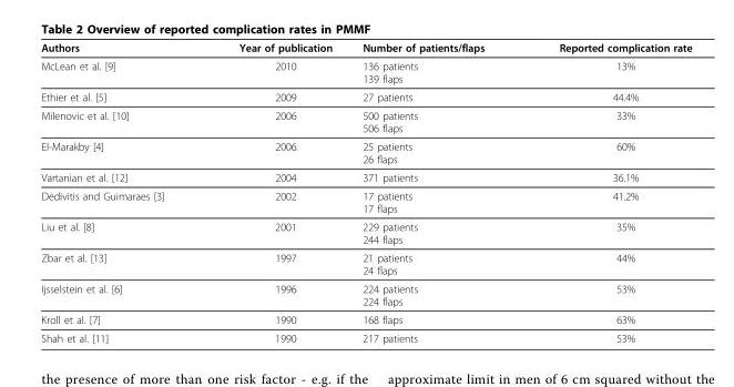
<table><thead><tr><td>Authors</td><td>Year of publication</td><td>Number of patients/flaps</td><td>Reported complication rate</td></tr></thead><tbody><tr><td>McLean et al. [9]</td><td>2010</td><td>136 patients 139 flaps</td><td>13%</td></tr><tr><td>Ethier et al. [5]</td><td>2009</td><td>27 patients</td><td>44.4%</td></tr><tr><td>Milenovic et al. [10]</td><td>2006</td><td>500 patients 506 flaps</td><td>33%</td></tr><tr><td>El-Marakby [4]</td><td>2006</td><td>25 patients 26 flaps</td><td>60%</td></tr><tr><td>Vartanian et al. [12]</td><td>2004</td><td>371 patients</td><td>36.1%</td></tr><tr><td>Dedivitis and Guimaraes [3]</td><td>2002</td><td>17 patients 17 flaps</td><td>41.2%</td></tr><tr><td>Liu et al. [8]</td><td>2001</td><td>229 patients 244 flaps</td><td>35%</td></tr><tr><td>Zbar et al. [13]</td><td>1997</td><td>21 patients 24 flaps</td><td>44%</td></tr><tr><td>Ijsselstein et al. [6]</td><td>1996</td><td>224 patients 224 flaps</td><td>53%</td></tr><tr><td>Kroll et al. [7]</td><td>1990</td><td>168 flaps</td><td>63%</td></tr><tr><td>Shah et al. [11]</td><td>1990</td><td>217 patients</td><td>53%</td></tr></tbody></table>